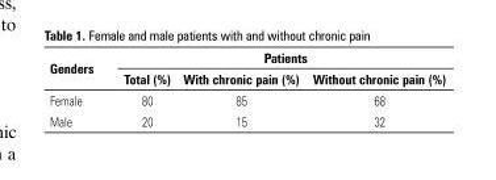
<table><thead><tr><td rowspan="2">Genders</td><td colspan="3">Patients</td></tr><tr><td>Total (%)</td><td>With chronic pain (%)</td><td>Without chronic pain (%)</td></tr></thead><tbody><tr><td>Female</td><td>80</td><td>85</td><td>68</td></tr><tr><td>Male</td><td>20</td><td>15</td><td>32</td></tr></tbody></table>